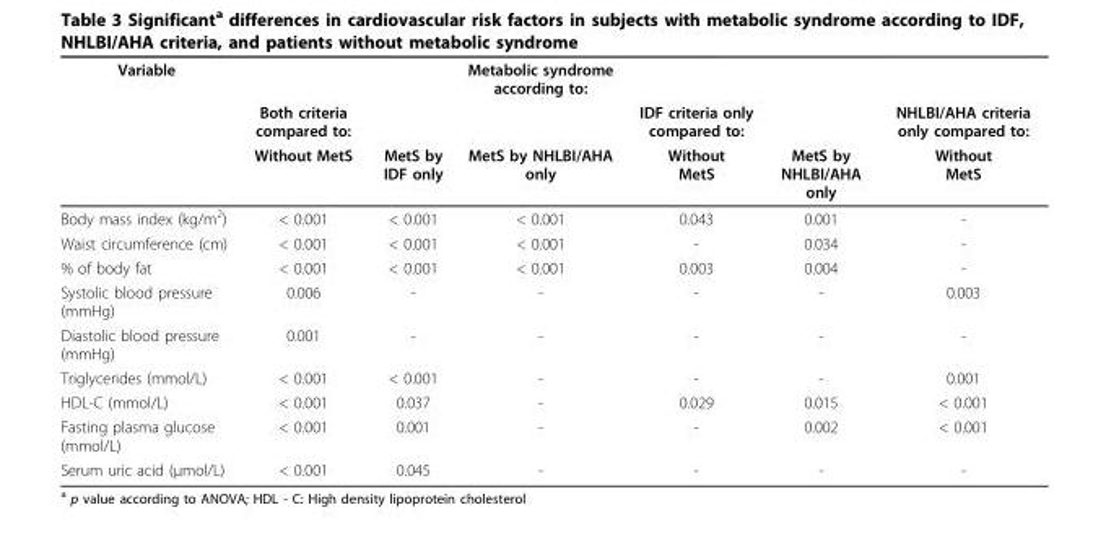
<table><thead><tr><td rowspan="3">Variable</td><td rowspan="3">Both criteria compared to: Without MetS</td><td rowspan="3">MetS by IDF only</td><td rowspan="3">Metabolic syndrome according to: MetS by NHLBI/AHA only</td><td rowspan="3">IDF criteria only compared to: Without MetS</td><td rowspan="3">MetS by NHLBI/AHA only</td><td rowspan="3">NHLBI/AHA criteria only compared to: Without MetS</td></tr><tr></tr><tr></tr></thead><tbody><tr><td>Body mass index (kg/m<sup>2</sup>)</td><td>&lt; 0.001</td><td>&lt; 0.001</td><td>&lt; 0.001</td><td>0.043</td><td>0.001</td><td>-</td></tr><tr><td>Waist circumference (cm)</td><td>&lt; 0.001</td><td>&lt; 0.001</td><td>&lt; 0.001</td><td>-</td><td>0.034</td><td>-</td></tr><tr><td>% of body fat</td><td>&lt; 0.001</td><td>&lt; 0.001</td><td>&lt; 0.001</td><td>0.003</td><td>0.004</td><td>-</td></tr><tr><td>Systolic blood pressure (mmHg)</td><td>0.006</td><td>-</td><td>-</td><td>-</td><td>-</td><td>0.003</td></tr><tr><td>Diastolic blood pressure (mmHg)</td><td>0.001</td><td>-</td><td>-</td><td>-</td><td>-</td><td>-</td></tr><tr><td>Triglycerides (mmol/L)</td><td>&lt; 0.001</td><td>&lt; 0.001</td><td>-</td><td>-</td><td>-</td><td>0.001</td></tr><tr><td>HDL-C (mmol/L)</td><td>&lt; 0.001</td><td>0.037</td><td>-</td><td>0.029</td><td>0.015</td><td>&lt; 0.001</td></tr><tr><td>Fasting plasma glucose (mmol/L)</td><td>&lt; 0.001</td><td>0.001</td><td>-</td><td>-</td><td>0.002</td><td>&lt; 0.001</td></tr><tr><td>Serum uric acid (μmol/L)</td><td>&lt; 0.001</td><td>0.045</td><td>-</td><td>-</td><td>-</td><td>-</td></tr></tbody></table>